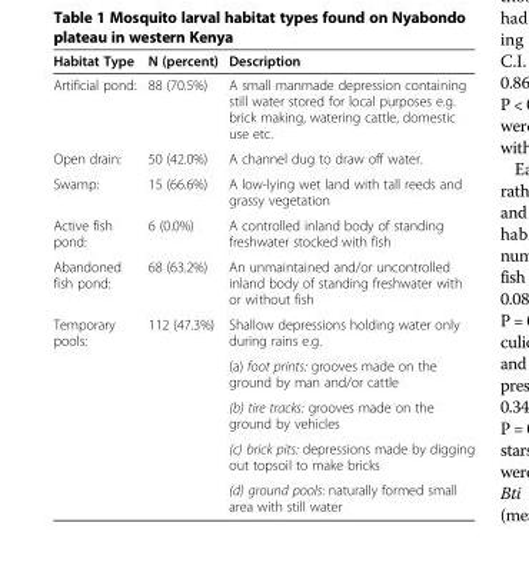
<table><thead><tr><td>Habitat Type</td><td>N (percent)</td><td>Description</td></tr></thead><tbody><tr><td>Artificial pond:</td><td>88 (70.5%)</td><td>A small manmade depression containing still water stored for local purposes e.g. brick making, watering cattle, domestic use etc.</td></tr><tr><td>Open drain:</td><td>50 (42.0%)</td><td>A channel dug to draw off water.</td></tr><tr><td>Swamp:</td><td>15 (66.6%)</td><td>A low-lying wet land with tall reeds and grassy vegetation</td></tr><tr><td>Active fish pond:</td><td>6 (0.0%)</td><td>A controlled inland body of standing freshwater stocked with fish</td></tr><tr><td>Abandoned fish pond:</td><td>68 (63.2%)</td><td>An unmaintained and/or uncontrolled inland body of standing freshwater with or without fish</td></tr><tr><td rowspan="5">Temporary pools:</td><td rowspan="5">112 (47.3%)</td><td>Shallow depressions holding water only during rains e.g.</td></tr><tr><td>(a) foot prints: grooves made on the ground by man and/or cattle</td></tr><tr><td>(b) tire tracks: grooves made on the ground by vehicles</td></tr><tr><td>(c) brick pits: depressions made by digging out topsoil to make bricks</td></tr><tr><td>(d) ground pools: naturally formed small area with still water</td></tr></tbody></table>